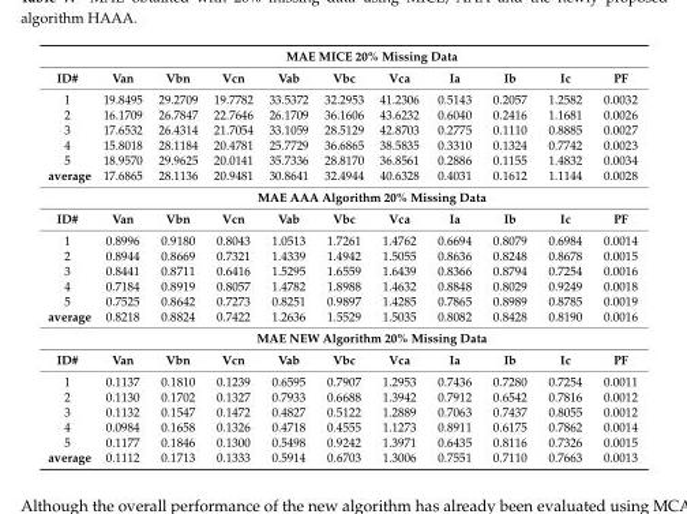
<table><thead><tr><td rowspan="2">ID#</td><td colspan="10">MAE MICE 20% Missing Data</td></tr><tr><td>Van</td><td>Vbn</td><td>Vcn</td><td>Vab</td><td>Vbc</td><td>Vca</td><td>Ia</td><td>Ib</td><td>Ic</td><td>PF</td></tr></thead><tbody><tr><td>1</td><td>19.8495</td><td>29.2709</td><td>19.7782</td><td>33.5372</td><td>32.2953</td><td>41.2306</td><td>0.5143</td><td>0.2057</td><td>1.2582</td><td>0.0032</td></tr><tr><td>2</td><td>16.1709</td><td>26.7847</td><td>22.7646</td><td>26.1709</td><td>36.1606</td><td>43.6232</td><td>0.6040</td><td>0.2416</td><td>1.1681</td><td>0.0026</td></tr><tr><td>3</td><td>17.6532</td><td>26.4314</td><td>21.7054</td><td>33.1059</td><td>28.5129</td><td>42.8703</td><td>0.2775</td><td>0.1110</td><td>0.8885</td><td>0.0027</td></tr><tr><td>4</td><td>15.8018</td><td>28.1184</td><td>20.4781</td><td>25.7729</td><td>36.6865</td><td>38.5835</td><td>0.3310</td><td>0.1324</td><td>0.7742</td><td>0.0023</td></tr><tr><td>5</td><td>18.9570</td><td>29.9625</td><td>20.0141</td><td>35.7336</td><td>28.8170</td><td>36.8561</td><td>0.2886</td><td>0.1155</td><td>1.4832</td><td>0.0034</td></tr><tr><td rowspan="2">average</td><td>17.6865</td><td>28.1136</td><td>20.9481</td><td>30.8641</td><td>32.4944</td><td>40.6328</td><td>0.4031</td><td>0.1612</td><td>1.1144</td><td>0.0028</td></tr><tr><td colspan="10">MAE AAA Algorithm 20% Missing Data</td></tr><tr><td>ID#</td><td>Van</td><td>Vbn</td><td>Vcn</td><td>Vab</td><td>Vbc</td><td>Vca</td><td>Ia</td><td>Ib</td><td>Ic</td><td>PF</td></tr><tr><td>1</td><td>0.8996</td><td>0.9180</td><td>0.8043</td><td>1.0513</td><td>1.7261</td><td>1.4762</td><td>0.6694</td><td>0.8079</td><td>0.6984</td><td>0.0014</td></tr><tr><td>2</td><td>0.8944</td><td>0.8669</td><td>0.7321</td><td>1.4339</td><td>1.4942</td><td>1.5055</td><td>0.8636</td><td>0.8248</td><td>0.8678</td><td>0.0015</td></tr><tr><td>3</td><td>0.8441</td><td>0.8711</td><td>0.6416</td><td>1.5295</td><td>1.6559</td><td>1.6439</td><td>0.8366</td><td>0.8794</td><td>0.7254</td><td>0.0016</td></tr><tr><td>4</td><td>0.7184</td><td>0.8919</td><td>0.8057</td><td>1.4782</td><td>1.8988</td><td>1.4632</td><td>0.8848</td><td>0.8029</td><td>0.9249</td><td>0.0018</td></tr><tr><td>5</td><td>0.7525</td><td>0.8642</td><td>0.7273</td><td>0.8251</td><td>0.9897</td><td>1.4285</td><td>0.7865</td><td>0.8989</td><td>0.8785</td><td>0.0019</td></tr><tr><td rowspan="2">average</td><td>0.8218</td><td>0.8824</td><td>0.7422</td><td>1.2636</td><td>1.5529</td><td>1.5035</td><td>0.8082</td><td>0.8428</td><td>0.8190</td><td>0.0016</td></tr><tr><td colspan="10">MAE NEW Algorithm 20% Missing Data</td></tr><tr><td>ID#</td><td>Van</td><td>Vbn</td><td>Vcn</td><td>Vab</td><td>Vbc</td><td>Vca</td><td>Ia</td><td>Ib</td><td>Ic</td><td>PF</td></tr><tr><td>1</td><td>0.1137</td><td>0.1810</td><td>0.1239</td><td>0.6595</td><td>0.7907</td><td>1.2953</td><td>0.7436</td><td>0.7280</td><td>0.7254</td><td>0.0011</td></tr><tr><td>2</td><td>0.1130</td><td>0.1702</td><td>0.1327</td><td>0.7933</td><td>0.6688</td><td>1.3942</td><td>0.7912</td><td>0.6542</td><td>0.7816</td><td>0.0012</td></tr><tr><td>3</td><td>0.1132</td><td>0.1547</td><td>0.1472</td><td>0.4827</td><td>0.5122</td><td>1.2889</td><td>0.7063</td><td>0.7437</td><td>0.8055</td><td>0.0012</td></tr><tr><td>4</td><td>0.0984</td><td>0.1658</td><td>0.1326</td><td>0.4718</td><td>0.4555</td><td>1.1273</td><td>0.8911</td><td>0.6175</td><td>0.7862</td><td>0.0014</td></tr><tr><td>5</td><td>0.1177</td><td>0.1846</td><td>0.1300</td><td>0.5498</td><td>0.9242</td><td>1.3971</td><td>0.6435</td><td>0.8116</td><td>0.7326</td><td>0.0015</td></tr><tr><td>average</td><td>0.1112</td><td>0.1713</td><td>0.1333</td><td>0.5914</td><td>0.6703</td><td>1.3006</td><td>0.7551</td><td>0.7110</td><td>0.7663</td><td>0.0013</td></tr></tbody></table>